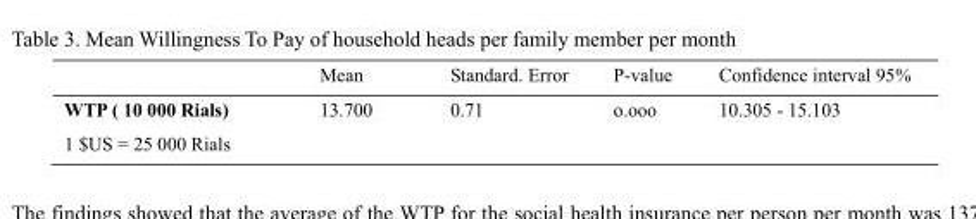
<table><thead><tr><td></td><td>Mean</td><td>Standard. Error</td><td>P-value</td><td>Confidence interval 95%</td></tr></thead><tbody><tr><td>WTP ( 10 000 Rials)</td><td>13.700</td><td>0.71</td><td>o.ooo</td><td>10.305 - 15.103</td></tr><tr><td colspan="5">1 $US = 25 000 Rials</td></tr></tbody></table>